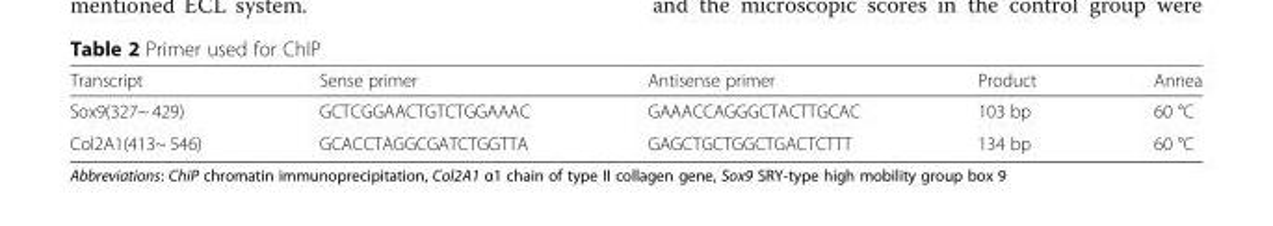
<table><thead><tr><td>Transcript</td><td>Sense primer</td><td>Antisense primer</td><td>Product</td><td>Annea</td></tr></thead><tbody><tr><td>Sox9(327~ 429)</td><td>GCTCGGAACTGTCTGGAAAC</td><td>GAAACCAGGGCTACTTGCAC</td><td>103 bp</td><td>60 °C</td></tr><tr><td>Col2A1(413~ 546)</td><td>GCACCTAGGCGATCTGGTTA</td><td>GAGCTGCTGGCTGACTCTTT</td><td>134 bp</td><td>60 °C</td></tr></tbody></table>